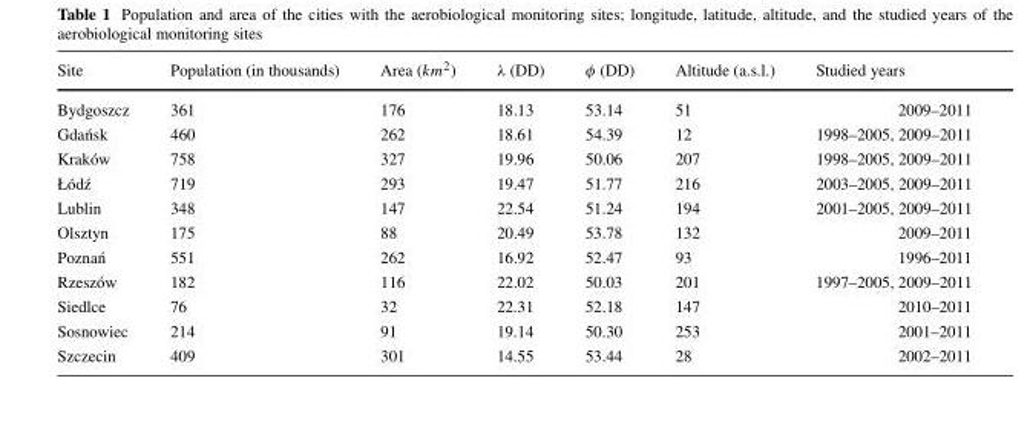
<table><thead><tr><td>Site</td><td>Population (in thousands)</td><td>Area (km<sup>2</sup>)</td><td>λ (DD)</td><td>φ (DD)</td><td>Altitude (a.s.l.)</td><td>Studied years</td></tr></thead><tbody><tr><td>Bydgoszcz</td><td>361</td><td>176</td><td>18.13</td><td>53.14</td><td>51</td><td>2009–2011</td></tr><tr><td>Gda´nsk</td><td>460</td><td>262</td><td>18.61</td><td>54.39</td><td>12</td><td>1998–2005, 2009–2011</td></tr><tr><td>Kraków</td><td>758</td><td>327</td><td>19.96</td><td>50.06</td><td>207</td><td>1998–2005, 2009–2011</td></tr><tr><td>Łód´z</td><td>719</td><td>293</td><td>19.47</td><td>51.77</td><td>216</td><td>2003–2005, 2009–2011</td></tr><tr><td>Lublin</td><td>348</td><td>147</td><td>22.54</td><td>51.24</td><td>194</td><td>2001–2005, 2009–2011</td></tr><tr><td>Olsztyn</td><td>175</td><td>88</td><td>20.49</td><td>53.78</td><td>132</td><td>2009–2011</td></tr><tr><td>Pozna´n</td><td>551</td><td>262</td><td>16.92</td><td>52.47</td><td>93</td><td>1996–2011</td></tr><tr><td>Rzeszów</td><td>182</td><td>116</td><td>22.02</td><td>50.03</td><td>201</td><td>1997–2005, 2009–2011</td></tr><tr><td>Siedlce</td><td>76</td><td>32</td><td>22.31</td><td>52.18</td><td>147</td><td>2010–2011</td></tr><tr><td>Sosnowiec</td><td>214</td><td>91</td><td>19.14</td><td>50.30</td><td>253</td><td>2001–2011</td></tr><tr><td>Szczecin</td><td>409</td><td>301</td><td>14.55</td><td>53.44</td><td>28</td><td>2002–2011</td></tr></tbody></table>